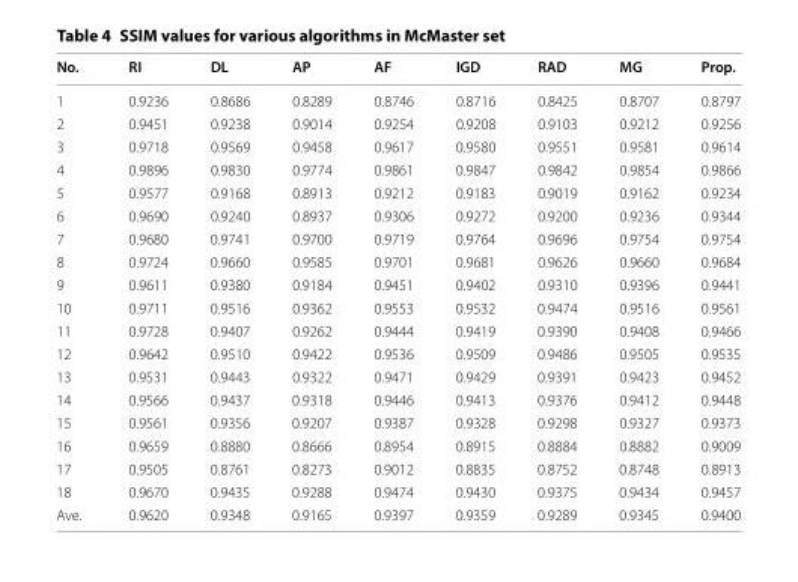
<table><thead><tr><td>No.</td><td>RI</td><td>DL</td><td>AP</td><td>AF</td><td>IGD</td><td>RAD</td><td>MG</td><td>Prop.</td></tr></thead><tbody><tr><td>1</td><td>0.9236</td><td>0.8686</td><td>0.8289</td><td>0.8746</td><td>0.8716</td><td>0.8425</td><td>0.8707</td><td>0.8797</td></tr><tr><td>2</td><td>0.9451</td><td>0.9238</td><td>0.9014</td><td>0.9254</td><td>0.9208</td><td>0.9103</td><td>0.9212</td><td>0.9256</td></tr><tr><td>3</td><td>0.9718</td><td>0.9569</td><td>0.9458</td><td>0.9617</td><td>0.9580</td><td>0.9551</td><td>0.9581</td><td>0.9614</td></tr><tr><td>4</td><td>0.9896</td><td>0.9830</td><td>0.9774</td><td>0.9861</td><td>0.9847</td><td>0.9842</td><td>0.9854</td><td>0.9866</td></tr><tr><td>5</td><td>0.9577</td><td>0.9168</td><td>0.8913</td><td>0.9212</td><td>0.9183</td><td>0.9019</td><td>0.9162</td><td>0.9234</td></tr><tr><td>6</td><td>0.9690</td><td>0.9240</td><td>0.8937</td><td>0.9306</td><td>0.9272</td><td>0.9200</td><td>0.9236</td><td>0.9344</td></tr><tr><td>7</td><td>0.9680</td><td>0.9741</td><td>0.9700</td><td>0.9719</td><td>0.9764</td><td>0.9696</td><td>0.9754</td><td>0.9754</td></tr><tr><td>8</td><td>0.9724</td><td>0.9660</td><td>0.9585</td><td>0.9701</td><td>0.9681</td><td>0.9626</td><td>0.9660</td><td>0.9684</td></tr><tr><td>9</td><td>0.9611</td><td>0.9380</td><td>0.9184</td><td>0.9451</td><td>0.9402</td><td>0.9310</td><td>0.9396</td><td>0.9441</td></tr><tr><td>10</td><td>0.9711</td><td>0.9516</td><td>0.9362</td><td>0.9553</td><td>0.9532</td><td>0.9474</td><td>0.9516</td><td>0.9561</td></tr><tr><td>11</td><td>0.9728</td><td>0.9407</td><td>0.9262</td><td>0.9444</td><td>0.9419</td><td>0.9390</td><td>0.9408</td><td>0.9466</td></tr><tr><td>12</td><td>0.9642</td><td>0.9510</td><td>0.9422</td><td>0.9536</td><td>0.9509</td><td>0.9486</td><td>0.9505</td><td>0.9535</td></tr><tr><td>13</td><td>0.9531</td><td>0.9443</td><td>0.9322</td><td>0.9471</td><td>0.9429</td><td>0.9391</td><td>0.9423</td><td>0.9452</td></tr><tr><td>14</td><td>0.9566</td><td>0.9437</td><td>0.9318</td><td>0.9446</td><td>0.9413</td><td>0.9376</td><td>0.9412</td><td>0.9448</td></tr><tr><td>15</td><td>0.9561</td><td>0.9356</td><td>0.9207</td><td>0.9387</td><td>0.9328</td><td>0.9298</td><td>0.9327</td><td>0.9373</td></tr><tr><td>16</td><td>0.9659</td><td>0.8880</td><td>0.8666</td><td>0.8954</td><td>0.8915</td><td>0.8884</td><td>0.8882</td><td>0.9009</td></tr><tr><td>17</td><td>0.9505</td><td>0.8761</td><td>0.8273</td><td>0.9012</td><td>0.8835</td><td>0.8752</td><td>0.8748</td><td>0.8913</td></tr><tr><td>18</td><td>0.9670</td><td>0.9435</td><td>0.9288</td><td>0.9474</td><td>0.9430</td><td>0.9375</td><td>0.9434</td><td>0.9457</td></tr><tr><td>Ave.</td><td>0.9620</td><td>0.9348</td><td>0.9165</td><td>0.9397</td><td>0.9359</td><td>0.9289</td><td>0.9345</td><td>0.9400</td></tr></tbody></table>